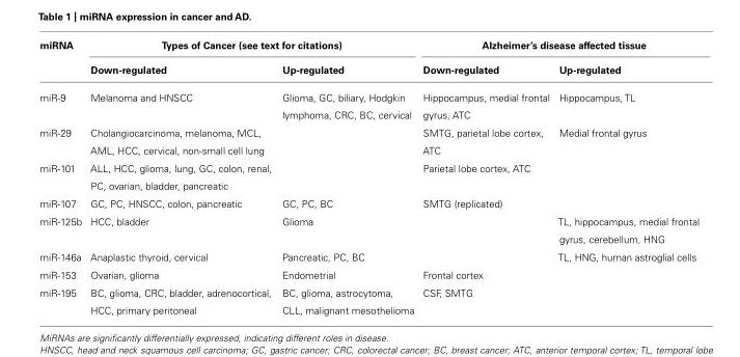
<table><thead><tr><td rowspan="2">miRNA</td><td colspan="2">Types of Cancer (see text for citations)</td><td colspan="2">Alzheimer’s disease affected tissue</td></tr><tr><td>Down-regulated</td><td>Up-regulated</td><td>Down-regulated</td><td>Up-regulated</td></tr></thead><tbody><tr><td>miR-9</td><td>Melanoma and HNSCC</td><td>Glioma, GC, biliary, Hodgkin lymphoma, CRC, BC, cervical</td><td>Hippocampus, medial frontal gyrus, ATC</td><td>Hippocampus, TL</td></tr><tr><td>miR-29</td><td>Cholangiocarcinoma, melanoma, MCL, AML, HCC, cervical, non-small cell lung</td><td></td><td>SMTG, parietal lobe cortex, ATC</td><td>Medial frontal gyrus</td></tr><tr><td>miR-101</td><td>ALL, HCC, glioma, lung, GC, colon, renal, PC, ovarian, bladder, pancreatic</td><td></td><td>Parietal lobe cortex, ATC</td><td></td></tr><tr><td>miR-107</td><td>GC, PC, HNSCC, colon, pancreatic</td><td>GC, PC, BC</td><td>SMTG (replicated)</td><td></td></tr><tr><td>miR-125b</td><td>HCC, bladder</td><td>Glioma</td><td></td><td>TL, hippocampus, medial frontal gyrus, cerebellum, HNG</td></tr><tr><td>miR-146a</td><td>Anaplastic thyroid, cervical</td><td>Pancreatic, PC, BC</td><td></td><td>TL, HNG, human astroglial cells</td></tr><tr><td>miR-153</td><td>Ovarian, glioma</td><td>Endometrial</td><td>Frontal cortex</td><td></td></tr><tr><td>miR-195</td><td>BC, glioma, CRC, bladder, adrenocortical, HCC, primary peritoneal</td><td>BC, glioma, astrocytoma, CLL, malignant mesothelioma</td><td>CSF, SMTG</td><td></td></tr></tbody></table>